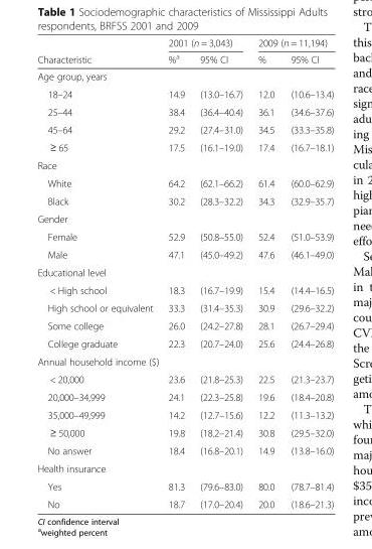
<table><thead><tr><td rowspan="2">Characteristic</td><td colspan="2">2001 (n = 3,043)</td><td colspan="2">2009 (n = 11,194)</td></tr><tr><td>%<sup>a</sup></td><td>95% CI</td><td>%</td><td>95% CI</td></tr></thead><tbody><tr><td colspan="5">Age group, years</td></tr><tr><td>18–24</td><td>14.9</td><td>(13.0–16.7)</td><td>12.0</td><td>(10.6–13.4)</td></tr><tr><td>25–44</td><td>38.4</td><td>(36.4–40.4)</td><td>36.1</td><td>(34.6–37.6)</td></tr><tr><td>45–64</td><td>29.2</td><td>(27.4–31.0)</td><td>34.5</td><td>(33.3–35.8)</td></tr><tr><td>≥ 65</td><td>17.5</td><td>(16.1–19.0)</td><td>17.4</td><td>(16.7–18.1)</td></tr><tr><td colspan="5">Race</td></tr><tr><td>White</td><td>64.2</td><td>(62.1–66.2)</td><td>61.4</td><td>(60.0–62.9)</td></tr><tr><td>Black</td><td>30.2</td><td>(28.3–32.2)</td><td>34.3</td><td>(32.9–35.7)</td></tr><tr><td colspan="5">Gender</td></tr><tr><td>Female</td><td>52.9</td><td>(50.8–55.0)</td><td>52.4</td><td>(51.0–53.9)</td></tr><tr><td>Male</td><td>47.1</td><td>(45.0–49.2)</td><td>47.6</td><td>(46.1–49.0)</td></tr><tr><td colspan="5">Educational level</td></tr><tr><td>&lt; High school</td><td>18.3</td><td>(16.7–19.9)</td><td>15.4</td><td>(14.4–16.5)</td></tr><tr><td>High school or equivalent</td><td>33.3</td><td>(31.4–35.3)</td><td>30.9</td><td>(29.6–32.2)</td></tr><tr><td>Some college</td><td>26.0</td><td>(24.2–27.8)</td><td>28.1</td><td>(26.7–29.4)</td></tr><tr><td>College graduate</td><td>22.3</td><td>(20.7–24.0)</td><td>25.6</td><td>(24.4–26.8)</td></tr><tr><td colspan="5">Annual household income ($)</td></tr><tr><td>&lt; 20,000</td><td>23.6</td><td>(21.8–25.3)</td><td>22.5</td><td>(21.3–23.7)</td></tr><tr><td>20,000–34,999</td><td>24.1</td><td>(22.3–25.8)</td><td>19.6</td><td>(18.4–20.8)</td></tr><tr><td>35,000–49,999</td><td>14.2</td><td>(12.7–15.6)</td><td>12.2</td><td>(11.3–13.2)</td></tr><tr><td>≥ 50,000</td><td>19.8</td><td>(18.2–21.4)</td><td>30.8</td><td>(29.5–32.0)</td></tr><tr><td>No answer</td><td>18.4</td><td>(16.8–20.1)</td><td>14.9</td><td>(13.8–16.0)</td></tr><tr><td colspan="5">Health insurance</td></tr><tr><td>Yes</td><td>81.3</td><td>(79.6–83.0)</td><td>80.0</td><td>(78.7–81.4)</td></tr><tr><td>No</td><td>18.7</td><td>(17.0–20.4)</td><td>20.0</td><td>(18.6–21.3)</td></tr></tbody></table>